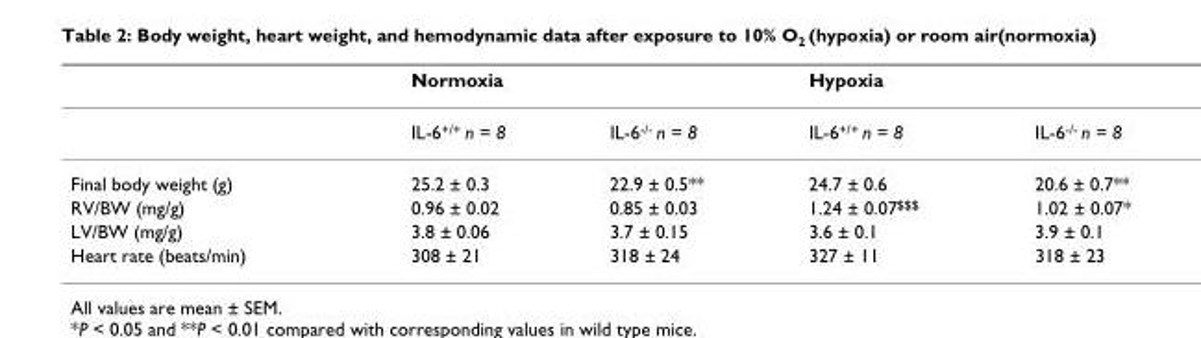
<table><thead><tr><td></td><td>Normoxia</td><td></td><td>Hypoxia</td><td></td></tr></thead><tbody><tr><td></td><td>IL-6<sup>+/+</sup> n = 8</td><td>IL-6<sup>-/-</sup> n = 8</td><td>IL-6<sup>+/+</sup> n = 8</td><td>IL-6<sup>-/-</sup> n = 8</td></tr><tr><td>Final body weight (g)</td><td>25.2 ± 0.3</td><td>22.9 ± 0.5**</td><td>24.7 ± 0.6</td><td>20.6 ± 0.7**</td></tr><tr><td>RV/BW (mg/g)</td><td>0.96 ± 0.02</td><td>0.85 ± 0.03</td><td>1.24 ± 0.07<sup>$$$</sup></td><td>1.02 ± 0.07*</td></tr><tr><td>LV/BW (mg/g)</td><td>3.8 ± 0.06</td><td>3.7 ± 0.15</td><td>3.6 ± 0.1</td><td>3.9 ± 0.1</td></tr><tr><td>Heart rate (beats/min)</td><td>308 ± 21</td><td>318 ± 24</td><td>327 ± 11</td><td>318 ± 23</td></tr></tbody></table>